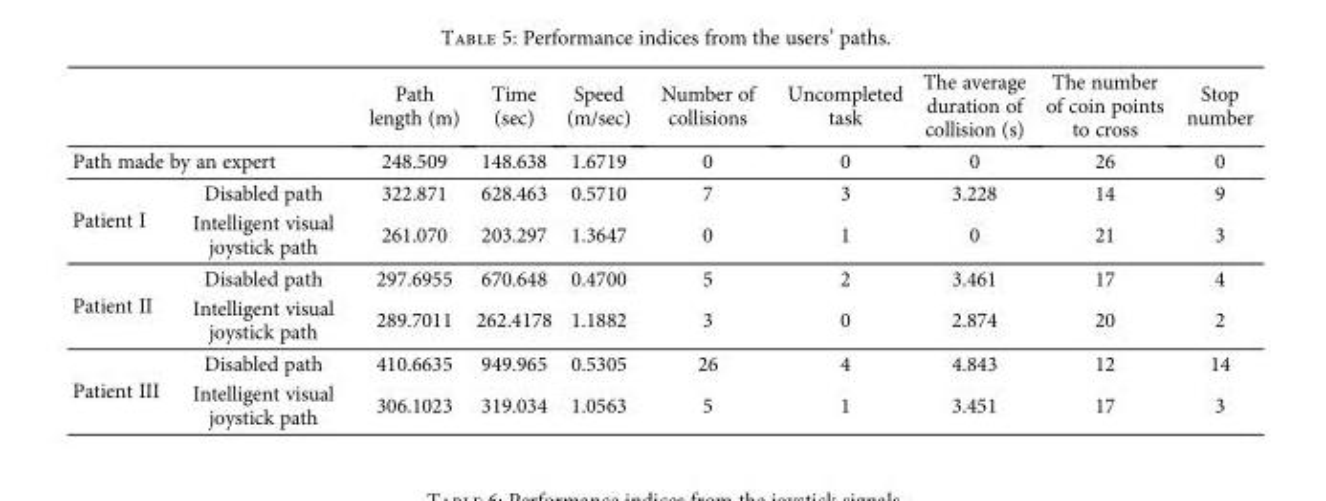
<table><thead><tr><td></td><td></td><td>Path length (m)</td><td>Time (sec)</td><td>Speed (m/sec)</td><td>Number of collisions</td><td>Uncompleted task</td><td>The average duration of collision (s)</td><td>The number of coin points to cross</td><td>Stop number</td></tr></thead><tbody><tr><td colspan="2">Path made by an expert</td><td>248.509</td><td>148.638</td><td>1.6719</td><td>0</td><td>0</td><td>0</td><td>26</td><td>0</td></tr><tr><td rowspan="2">Patient I</td><td>Disabled path</td><td>322.871</td><td>628.463</td><td>0.5710</td><td>7</td><td>3</td><td>3.228</td><td>14</td><td>9</td></tr><tr><td>Intelligent visual joystick path</td><td>261.070</td><td>203.297</td><td>1.3647</td><td>0</td><td>1</td><td>0</td><td>21</td><td>3</td></tr><tr><td rowspan="2">Patient II</td><td>Disabled path</td><td>297.6955</td><td>670.648</td><td>0.4700</td><td>5</td><td>2</td><td>3.461</td><td>17</td><td>4</td></tr><tr><td>Intelligent visual joystick path</td><td>289.7011</td><td>262.4178</td><td>1.1882</td><td>3</td><td>0</td><td>2.874</td><td>20</td><td>2</td></tr><tr><td rowspan="2">Patient III</td><td>Disabled path</td><td>410.6635</td><td>949.965</td><td>0.5305</td><td>26</td><td>4</td><td>4.843</td><td>12</td><td>14</td></tr><tr><td>Intelligent visual joystick path</td><td>306.1023</td><td>319.034</td><td>1.0563</td><td>5</td><td>1</td><td>3.451</td><td>17</td><td>3</td></tr></tbody></table>